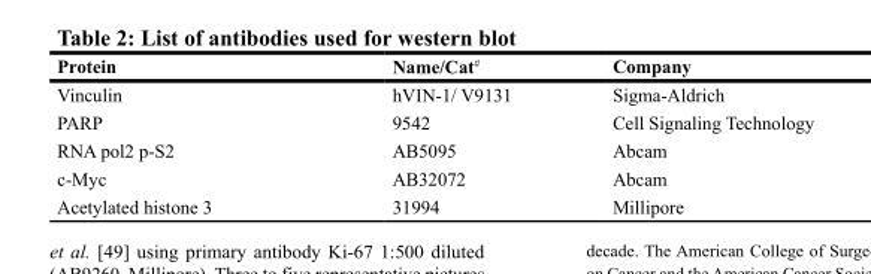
<table><thead><tr><td>Protein</td><td>Name/Cat<sup>#</sup></td><td>Company</td></tr></thead><tbody><tr><td>Vinculin</td><td>hVIN-1/ V9131</td><td>Sigma-Aldrich</td></tr><tr><td>PARP</td><td>9542</td><td>Cell Signaling Technology</td></tr><tr><td>RNA pol2 p-S2</td><td>AB5095</td><td>Abcam</td></tr><tr><td>c-Myc</td><td>AB32072</td><td>Abcam</td></tr><tr><td>Acetylated histone 3</td><td>31994</td><td>Millipore</td></tr></tbody></table>